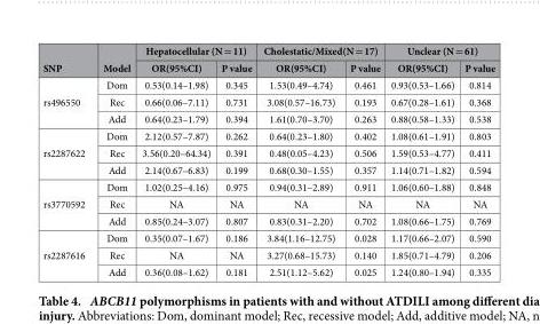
<table><thead><tr><td rowspan="2">SNP</td><td rowspan="2">Model</td><td colspan="2">Hepatocellular (N = 11)</td><td colspan="2">Cholestatic/Mixed(N = 17)</td><td colspan="2">Unclear (N = 61)</td></tr><tr><td>OR(95%CI)</td><td>P value</td><td>OR(95%CI)</td><td>P value</td><td>OR(95%CI)</td><td>P value</td></tr></thead><tbody><tr><td rowspan="3">rs496550</td><td>Dom</td><td>0.53(0.14–1.98)</td><td>0.345</td><td>1.53(0.49–4.74)</td><td>0.461</td><td>0.93(0.53–1.66)</td><td>0.814</td></tr><tr><td>Rec</td><td>0.66(0.06–7.11)</td><td>0.731</td><td>3.08(0.57–16.73)</td><td>0.193</td><td>0.67(0.28–1.61)</td><td>0.368</td></tr><tr><td>Add</td><td>0.64(0.23–1.79)</td><td>0.394</td><td>1.61(0.70–3.70)</td><td>0.263</td><td>0.88(0.58–1.33)</td><td>0.538</td></tr><tr><td rowspan="3">rs2287622</td><td>Dom</td><td>2.12(0.57–7.87)</td><td>0.262</td><td>0.64(0.23–1.80)</td><td>0.402</td><td>1.08(0.61–1.91)</td><td>0.803</td></tr><tr><td>Rec</td><td>3.56(0.20–64.34)</td><td>0.391</td><td>0.48(0.05–4.23)</td><td>0.506</td><td>1.59(0.53–4.77)</td><td>0.411</td></tr><tr><td>Add</td><td>2.14(0.67–6.83)</td><td>0.199</td><td>0.68(0.30–1.55)</td><td>0.357</td><td>1.14(0.71–1.82)</td><td>0.594</td></tr><tr><td rowspan="3">rs3770592</td><td>Dom</td><td>1.02(0.25–4.16)</td><td>0.975</td><td>0.94(0.31–2.89)</td><td>0.911</td><td>1.06(0.60–1.88)</td><td>0.848</td></tr><tr><td>Rec</td><td>NA</td><td>NA</td><td>NA</td><td>NA</td><td>NA</td><td>NA</td></tr><tr><td>Add</td><td>0.85(0.24–3.07)</td><td>0.807</td><td>0.83(0.31–2.20)</td><td>0.702</td><td>1.08(0.66–1.75)</td><td>0.769</td></tr><tr><td rowspan="3">rs2287616</td><td>Dom</td><td>0.35(0.07–1.67)</td><td>0.186</td><td>3.84(1.16–12.75)</td><td>0.028</td><td>1.17(0.66–2.07)</td><td>0.590</td></tr><tr><td>Rec</td><td>NA</td><td>NA</td><td>3.27(0.68–15.73)</td><td>0.140</td><td>1.85(0.71–4.79)</td><td>0.206</td></tr><tr><td>Add</td><td>0.36(0.08–1.62)</td><td>0.181</td><td>2.51(1.12–5.62)</td><td>0.025</td><td>1.24(0.80–1.94)</td><td>0.335</td></tr></tbody></table>